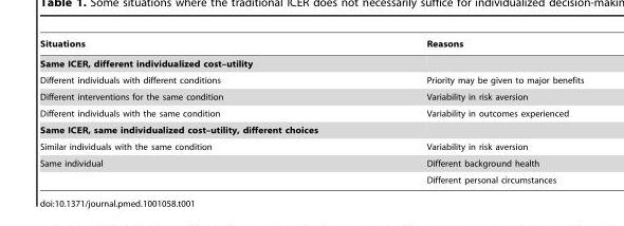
<table><thead><tr><td>Situations</td><td>Reasons</td></tr></thead><tbody><tr><td colspan="2">Same ICER, different individualized cost–utility</td></tr><tr><td>Different individuals with different conditions</td><td>Priority may be given to major benefits</td></tr><tr><td>Different interventions for the same condition</td><td>Variability in risk aversion</td></tr><tr><td>Different individuals with the same condition</td><td>Variability in outcomes experienced</td></tr><tr><td colspan="2">Same ICER, same individualized cost–utility, different choices</td></tr><tr><td>Similar individuals with the same condition</td><td>Variability in risk aversion</td></tr><tr><td rowspan="2">Same individual</td><td>Different background health</td></tr><tr><td>Different personal circumstances</td></tr></tbody></table>